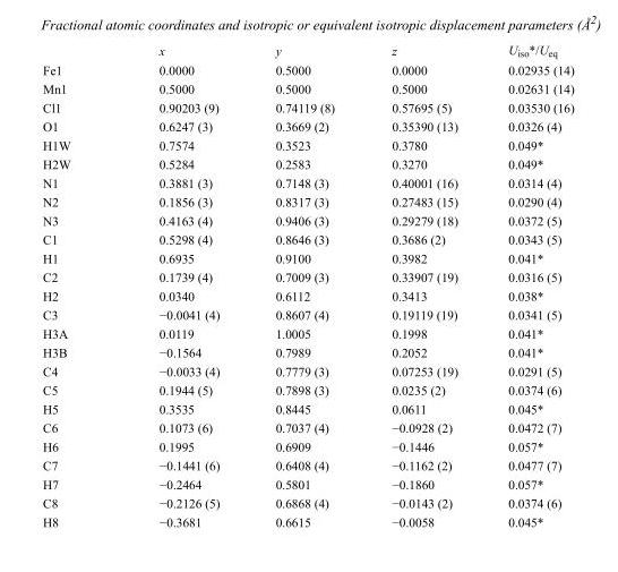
<table><thead><tr><td></td><td>x</td><td>y</td><td>z</td><td>U<sub>iso</sub>*/U<sub>eq</sub></td></tr></thead><tbody><tr><td>Fe1</td><td>0.0000</td><td>0.5000</td><td>0.0000</td><td>0.02935 (14)</td></tr><tr><td>Mn1</td><td>0.5000</td><td>0.5000</td><td>0.5000</td><td>0.02631 (14)</td></tr><tr><td>Cl1</td><td>0.90203 (9)</td><td>0.74119 (8)</td><td>0.57695 (5)</td><td>0.03530 (16)</td></tr><tr><td>O1</td><td>0.6247 (3)</td><td>0.3669 (2)</td><td>0.35390 (13)</td><td>0.0326 (4)</td></tr><tr><td>H1W</td><td>0.7574</td><td>0.3523</td><td>0.3780</td><td>0.049*</td></tr><tr><td>H2W</td><td>0.5284</td><td>0.2583</td><td>0.3270</td><td>0.049*</td></tr><tr><td>N1</td><td>0.3881 (3)</td><td>0.7148 (3)</td><td>0.40001 (16)</td><td>0.0314 (4)</td></tr><tr><td>N2</td><td>0.1856 (3)</td><td>0.8317 (3)</td><td>0.27483 (15)</td><td>0.0290 (4)</td></tr><tr><td>N3</td><td>0.4163 (4)</td><td>0.9406 (3)</td><td>0.29279 (18)</td><td>0.0372 (5)</td></tr><tr><td>C1</td><td>0.5298 (4)</td><td>0.8646 (3)</td><td>0.3686 (2)</td><td>0.0343 (5)</td></tr><tr><td>H1</td><td>0.6935</td><td>0.9100</td><td>0.3982</td><td>0.041*</td></tr><tr><td>C2</td><td>0.1739 (4)</td><td>0.7009 (3)</td><td>0.33907 (19)</td><td>0.0316 (5)</td></tr><tr><td>H2</td><td>0.0340</td><td>0.6112</td><td>0.3413</td><td>0.038*</td></tr><tr><td>C3</td><td>−0.0041 (4)</td><td>0.8607 (4)</td><td>0.19119 (19)</td><td>0.0341 (5)</td></tr><tr><td>H3A</td><td>0.0119</td><td>1.0005</td><td>0.1998</td><td>0.041*</td></tr><tr><td>H3B</td><td>−0.1564</td><td>0.7989</td><td>0.2052</td><td>0.041*</td></tr><tr><td>C4</td><td>−0.0033 (4)</td><td>0.7779 (3)</td><td>0.07253 (19)</td><td>0.0291 (5)</td></tr><tr><td>C5</td><td>0.1944 (5)</td><td>0.7898 (3)</td><td>0.0235 (2)</td><td>0.0374 (6)</td></tr><tr><td>H5</td><td>0.3535</td><td>0.8445</td><td>0.0611</td><td>0.045*</td></tr><tr><td>C6</td><td>0.1073 (6)</td><td>0.7037 (4)</td><td>−0.0928 (2)</td><td>0.0472 (7)</td></tr><tr><td>H6</td><td>0.1995</td><td>0.6909</td><td>−0.1446</td><td>0.057*</td></tr><tr><td>C7</td><td>−0.1441 (6)</td><td>0.6408 (4)</td><td>−0.1162 (2)</td><td>0.0477 (7)</td></tr><tr><td>H7</td><td>−0.2464</td><td>0.5801</td><td>−0.1860</td><td>0.057*</td></tr><tr><td>C8</td><td>−0.2126 (5)</td><td>0.6868 (4)</td><td>−0.0143 (2)</td><td>0.0374 (6)</td></tr><tr><td>H8</td><td>−0.3681</td><td>0.6615</td><td>−0.0058</td><td>0.045*</td></tr></tbody></table>